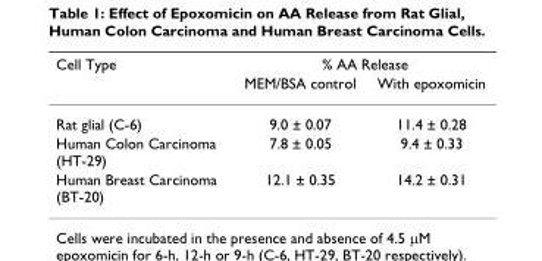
<table><thead><tr><td rowspan="2">Cell Type</td><td colspan="2">% AA Release</td></tr><tr><td>MEM/BSA control</td><td>With epoxomicin</td></tr></thead><tbody><tr><td>Rat glial (C-6)</td><td>9.0 ± 0.07</td><td>11.4 ± 0.28</td></tr><tr><td>Human Colon Carcinoma (HT-29)</td><td>7.8 ± 0.05</td><td>9.4 ± 0.33</td></tr><tr><td>Human Breast Carcinoma (BT-20)</td><td>12.1 ± 0.35</td><td>14.2 ± 0.31</td></tr></tbody></table>